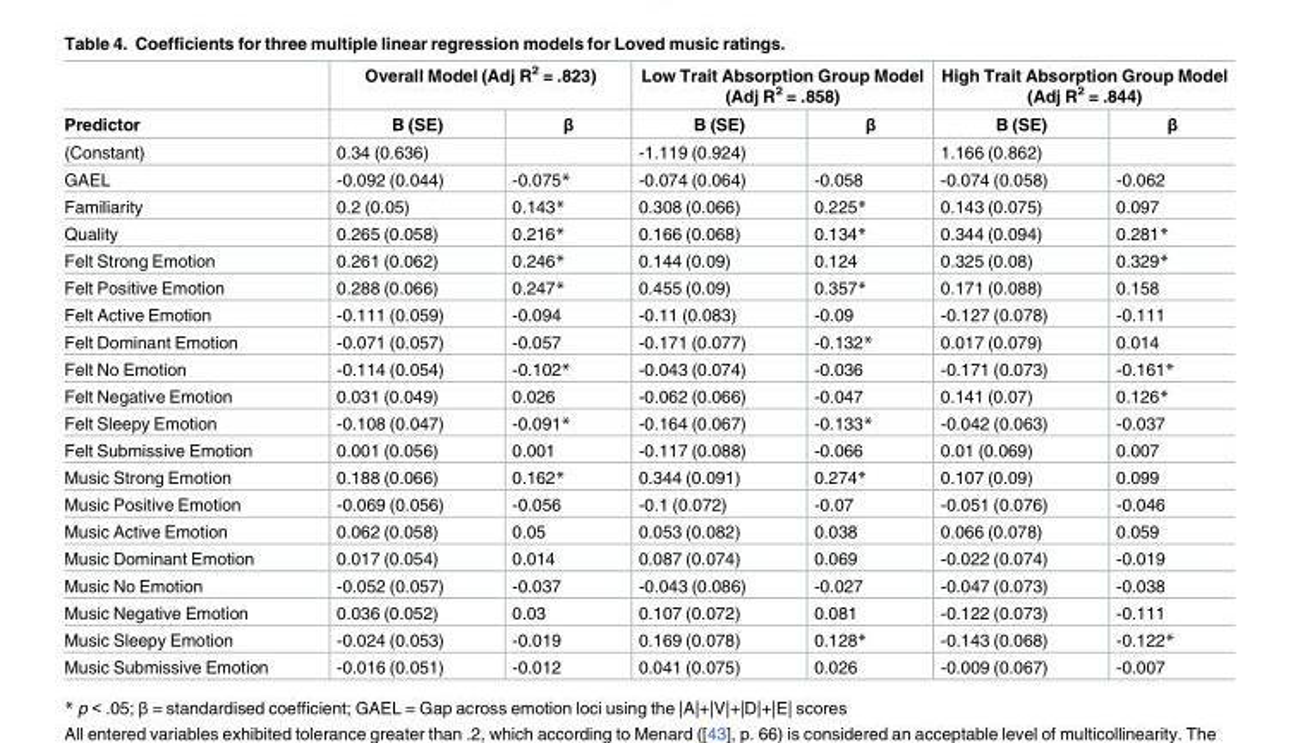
<table><thead><tr><td rowspan="2">Predictor</td><td colspan="2">Overall Model (Adj R<sup>2</sup> = .823)</td><td colspan="2">Low Trait Absorption Group Model (Adj R<sup>2</sup> = .858)</td><td colspan="2">High Trait Absorption Group Model (Adj R<sup>2</sup> = .844)</td></tr><tr><td>B (SE)</td><td>β</td><td>B (SE)</td><td>β</td><td>B (SE)</td><td>β</td></tr></thead><tbody><tr><td>(Constant)</td><td>0.34 (0.636)</td><td></td><td>-1.119 (0.924)</td><td></td><td>1.166 (0.862)</td><td></td></tr><tr><td>GAEL</td><td>-0.092 (0.044)</td><td>-0.075*</td><td>-0.074 (0.064)</td><td>-0.058</td><td>-0.074 (0.058)</td><td>-0.062</td></tr><tr><td>Familiarity</td><td>0.2 (0.05)</td><td>0.143*</td><td>0.308 (0.066)</td><td>0.225*</td><td>0.143 (0.075)</td><td>0.097</td></tr><tr><td>Quality</td><td>0.265 (0.058)</td><td>0.216*</td><td>0.166 (0.068)</td><td>0.134*</td><td>0.344 (0.094)</td><td>0.281*</td></tr><tr><td>Felt Strong Emotion</td><td>0.261 (0.062)</td><td>0.246*</td><td>0.144 (0.09)</td><td>0.124</td><td>0.325 (0.08)</td><td>0.329*</td></tr><tr><td>Felt Positive Emotion</td><td>0.288 (0.066)</td><td>0.247*</td><td>0.455 (0.09)</td><td>0.357*</td><td>0.171 (0.088)</td><td>0.158</td></tr><tr><td>Felt Active Emotion</td><td>-0.111 (0.059)</td><td>-0.094</td><td>-0.11 (0.083)</td><td>-0.09</td><td>-0.127 (0.078)</td><td>-0.111</td></tr><tr><td>Felt Dominant Emotion</td><td>-0.071 (0.057)</td><td>-0.057</td><td>-0.171 (0.077)</td><td>-0.132*</td><td>0.017 (0.079)</td><td>0.014</td></tr><tr><td>Felt No Emotion</td><td>-0.114 (0.054)</td><td>-0.102*</td><td>-0.043 (0.074)</td><td>-0.036</td><td>-0.171 (0.073)</td><td>-0.161*</td></tr><tr><td>Felt Negative Emotion</td><td>0.031 (0.049)</td><td>0.026</td><td>-0.062 (0.066)</td><td>-0.047</td><td>0.141 (0.07)</td><td>0.126*</td></tr><tr><td>Felt Sleepy Emotion</td><td>-0.108 (0.047)</td><td>-0.091*</td><td>-0.164 (0.067)</td><td>-0.133*</td><td>-0.042 (0.063)</td><td>-0.037</td></tr><tr><td>Felt Submissive Emotion</td><td>0.001 (0.056)</td><td>0.001</td><td>-0.117 (0.088)</td><td>-0.066</td><td>0.01 (0.069)</td><td>0.007</td></tr><tr><td>Music Strong Emotion</td><td>0.188 (0.066)</td><td>0.162*</td><td>0.344 (0.091)</td><td>0.274*</td><td>0.107 (0.09)</td><td>0.099</td></tr><tr><td>Music Positive Emotion</td><td>-0.069 (0.056)</td><td>-0.056</td><td>-0.1 (0.072)</td><td>-0.07</td><td>-0.051 (0.076)</td><td>-0.046</td></tr><tr><td>Music Active Emotion</td><td>0.062 (0.058)</td><td>0.05</td><td>0.053 (0.082)</td><td>0.038</td><td>0.066 (0.078)</td><td>0.059</td></tr><tr><td>Music Dominant Emotion</td><td>0.017 (0.054)</td><td>0.014</td><td>0.087 (0.074)</td><td>0.069</td><td>-0.022 (0.074)</td><td>-0.019</td></tr><tr><td>Music No Emotion</td><td>-0.052 (0.057)</td><td>-0.037</td><td>-0.043 (0.086)</td><td>-0.027</td><td>-0.047 (0.073)</td><td>-0.038</td></tr><tr><td>Music Negative Emotion</td><td>0.036 (0.052)</td><td>0.03</td><td>0.107 (0.072)</td><td>0.081</td><td>-0.122 (0.073)</td><td>-0.111</td></tr><tr><td>Music Sleepy Emotion</td><td>-0.024 (0.053)</td><td>-0.019</td><td>0.169 (0.078)</td><td>0.128*</td><td>-0.143 (0.068)</td><td>-0.122*</td></tr><tr><td>Music Submissive Emotion</td><td>-0.016 (0.051)</td><td>-0.012</td><td>0.041 (0.075)</td><td>0.026</td><td>-0.009 (0.067)</td><td>-0.007</td></tr></tbody></table>